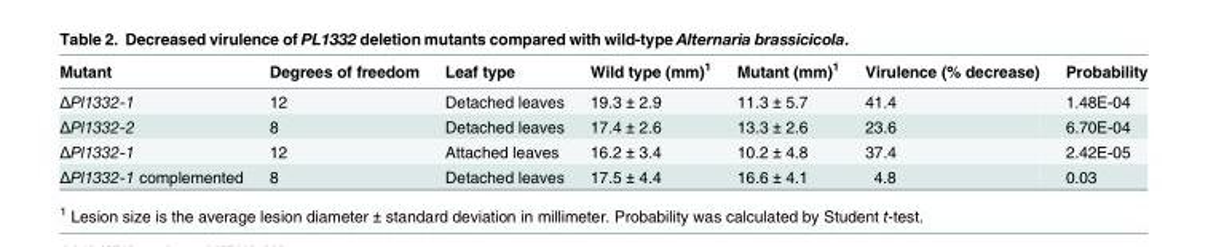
<table><thead><tr><td>Mutant</td><td>Degrees of freedom</td><td>Leaf type</td><td>Wild type (mm)<sup>1</sup></td><td>Mutant (mm)<sup>1</sup></td><td>Virulence (% decrease)</td><td>Probability</td></tr></thead><tbody><tr><td>ΔPl1332-1</td><td>12</td><td>Detached leaves</td><td>19.3 ± 2.9</td><td>11.3 ± 5.7</td><td>41.4</td><td>1.48E-04</td></tr><tr><td>ΔPl1332-2</td><td>8</td><td>Detached leaves</td><td>17.4 ± 2.6</td><td>13.3 ± 2.6</td><td>23.6</td><td>6.70E-04</td></tr><tr><td>ΔPl1332-1</td><td>12</td><td>Attached leaves</td><td>16.2 ± 3.4</td><td>10.2 ± 4.8</td><td>37.4</td><td>2.42E-05</td></tr><tr><td>ΔPl1332-1 complemented</td><td>8</td><td>Detached leaves</td><td>17.5 ± 4.4</td><td>16.6 ± 4.1</td><td>4.8</td><td>0.03</td></tr></tbody></table>